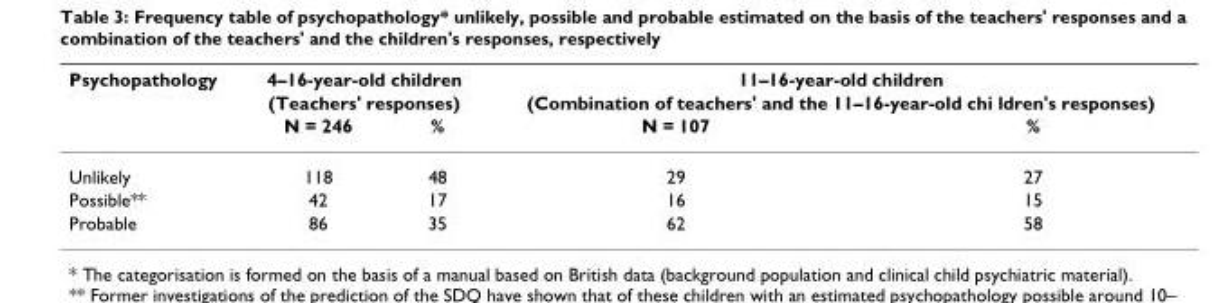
<table><thead><tr><td rowspan="3">Psychopathology</td><td rowspan="2" colspan="2">4–16-year-old children (Teachers&#x27; responses)</td><td rowspan="2" colspan="2">11–16-year-old children (Combination of teachers&#x27; and the 11–16-year-old chi ldren&#x27;s responses)</td></tr><tr></tr><tr><td>N = 246</td><td>%</td><td>N = 107</td><td>%</td></tr></thead><tbody><tr><td>Unlikely</td><td>118</td><td>48</td><td>29</td><td>27</td></tr><tr><td>Possible**</td><td>42</td><td>17</td><td>16</td><td>15</td></tr><tr><td>Probable</td><td>86</td><td>35</td><td>62</td><td>58</td></tr></tbody></table>